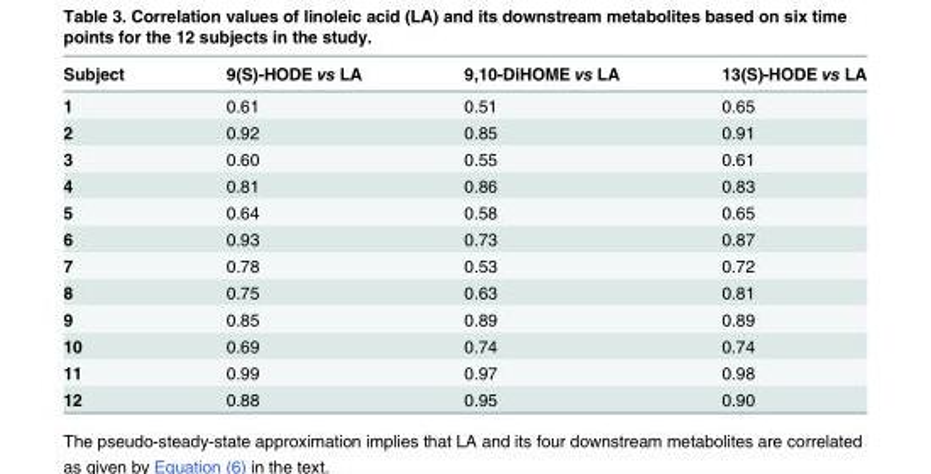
<table><thead><tr><td>Subject</td><td>9(S)-HODE vs LA</td><td>9,10-DiHOME vs LA</td><td>13(S)-HODE vs LA</td></tr></thead><tbody><tr><td>1</td><td>0.61</td><td>0.51</td><td>0.65</td></tr><tr><td>2</td><td>0.92</td><td>0.85</td><td>0.91</td></tr><tr><td>3</td><td>0.60</td><td>0.55</td><td>0.61</td></tr><tr><td>4</td><td>0.81</td><td>0.86</td><td>0.83</td></tr><tr><td>5</td><td>0.64</td><td>0.58</td><td>0.65</td></tr><tr><td>6</td><td>0.93</td><td>0.73</td><td>0.87</td></tr><tr><td>7</td><td>0.78</td><td>0.53</td><td>0.72</td></tr><tr><td>8</td><td>0.75</td><td>0.63</td><td>0.81</td></tr><tr><td>9</td><td>0.85</td><td>0.89</td><td>0.89</td></tr><tr><td>10</td><td>0.69</td><td>0.74</td><td>0.74</td></tr><tr><td>11</td><td>0.99</td><td>0.97</td><td>0.98</td></tr><tr><td>12</td><td>0.88</td><td>0.95</td><td>0.90</td></tr></tbody></table>